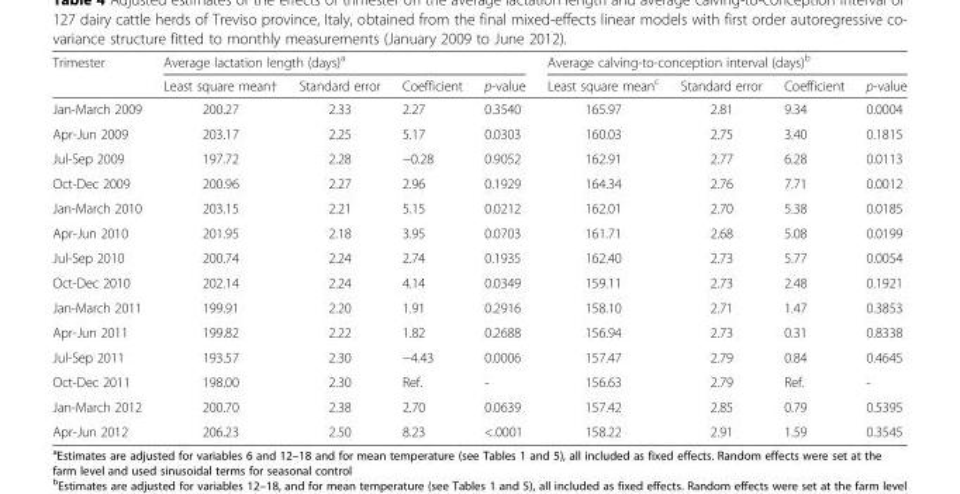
<table><thead><tr><td rowspan="2">Trimester</td><td colspan="4">Average lactation length (days)<sup>a</sup></td><td colspan="4">Average calving-to-conception interval (days)<sup>b</sup></td></tr><tr><td>Least square mean†</td><td>Standard error</td><td>Coefficient</td><td>p-value</td><td>Least square mean<sup>c</sup></td><td>Standard error</td><td>Coefficient</td><td>p-value</td></tr></thead><tbody><tr><td>Jan-March 2009</td><td>200.27</td><td>2.33</td><td>2.27</td><td>0.3540</td><td>165.97</td><td>2.81</td><td>9.34</td><td>0.0004</td></tr><tr><td>Apr-Jun 2009</td><td>203.17</td><td>2.25</td><td>5.17</td><td>0.0303</td><td>160.03</td><td>2.75</td><td>3.40</td><td>0.1815</td></tr><tr><td>Jul-Sep 2009</td><td>197.72</td><td>2.28</td><td>−0.28</td><td>0.9052</td><td>162.91</td><td>2.77</td><td>6.28</td><td>0.0113</td></tr><tr><td>Oct-Dec 2009</td><td>200.96</td><td>2.27</td><td>2.96</td><td>0.1929</td><td>164.34</td><td>2.76</td><td>7.71</td><td>0.0012</td></tr><tr><td>Jan-March 2010</td><td>203.15</td><td>2.21</td><td>5.15</td><td>0.0212</td><td>162.01</td><td>2.70</td><td>5.38</td><td>0.0185</td></tr><tr><td>Apr-Jun 2010</td><td>201.95</td><td>2.18</td><td>3.95</td><td>0.0703</td><td>161.71</td><td>2.68</td><td>5.08</td><td>0.0199</td></tr><tr><td>Jul-Sep 2010</td><td>200.74</td><td>2.24</td><td>2.74</td><td>0.1935</td><td>162.40</td><td>2.73</td><td>5.77</td><td>0.0054</td></tr><tr><td>Oct-Dec 2010</td><td>202.14</td><td>2.24</td><td>4.14</td><td>0.0349</td><td>159.11</td><td>2.73</td><td>2.48</td><td>0.1921</td></tr><tr><td>Jan-March 2011</td><td>199.91</td><td>2.20</td><td>1.91</td><td>0.2916</td><td>158.10</td><td>2.71</td><td>1.47</td><td>0.3853</td></tr><tr><td>Apr-Jun 2011</td><td>199.82</td><td>2.22</td><td>1.82</td><td>0.2688</td><td>156.94</td><td>2.73</td><td>0.31</td><td>0.8338</td></tr><tr><td>Jul-Sep 2011</td><td>193.57</td><td>2.30</td><td>−4.43</td><td>0.0006</td><td>157.47</td><td>2.79</td><td>0.84</td><td>0.4645</td></tr><tr><td>Oct-Dec 2011</td><td>198.00</td><td>2.30</td><td>Ref.</td><td>-</td><td>156.63</td><td>2.79</td><td>Ref.</td><td>-</td></tr><tr><td>Jan-March 2012</td><td>200.70</td><td>2.38</td><td>2.70</td><td>0.0639</td><td>157.42</td><td>2.85</td><td>0.79</td><td>0.5395</td></tr><tr><td>Apr-Jun 2012</td><td>206.23</td><td>2.50</td><td>8.23</td><td>&lt;.0001</td><td>158.22</td><td>2.91</td><td>1.59</td><td>0.3545</td></tr></tbody></table>